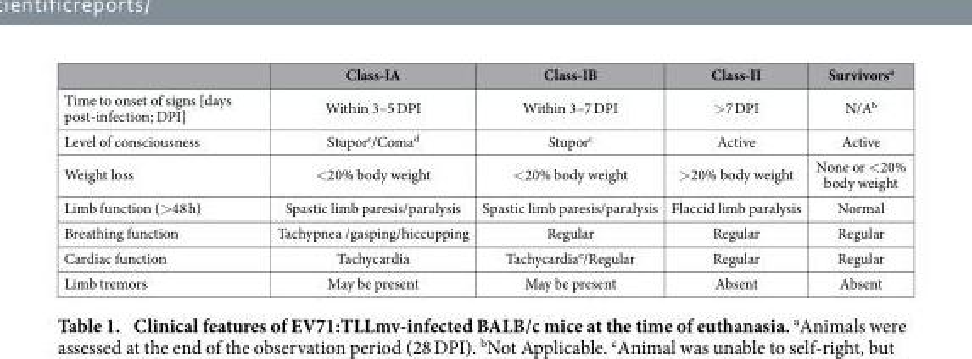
<table><thead><tr><td></td><td>Class-IA</td><td>Class-IB</td><td>Class-II</td><td>Survivors<sup>a</sup></td></tr></thead><tbody><tr><td>Time to onset of signs [days post-infection; DPI]</td><td>Within 3–5 DPI</td><td>Within 3–7 DPI</td><td>&gt; 7 DPI</td><td>N/A<sup>b</sup></td></tr><tr><td>Level of consciousness</td><td>Stupor<sup>c</sup>/Coma<sup>d</sup></td><td>Stupor<sup>c</sup></td><td>Active</td><td>Active</td></tr><tr><td>Weight loss</td><td>&lt; 20% body weight</td><td>&lt; 20% body weight</td><td>&gt;20% body weight</td><td>None or &lt;20% body weight</td></tr><tr><td>Limb function (&gt; 48 h)</td><td>Spastic limb paresis/paralysis</td><td>Spastic limb paresis/paralysis</td><td>Flaccid limb paralysis</td><td>Normal</td></tr><tr><td>Breathing function</td><td>Tachypnea /gasping/hiccupping</td><td>Regular</td><td>Regular</td><td>Regular</td></tr><tr><td>Cardiac function</td><td>Tachycardia</td><td>Tachycardia<sup>e</sup>/Regular</td><td>Regular</td><td>Regular</td></tr><tr><td>Limb tremors</td><td>May be present</td><td>May be present</td><td>Absent</td><td>Absent</td></tr></tbody></table>